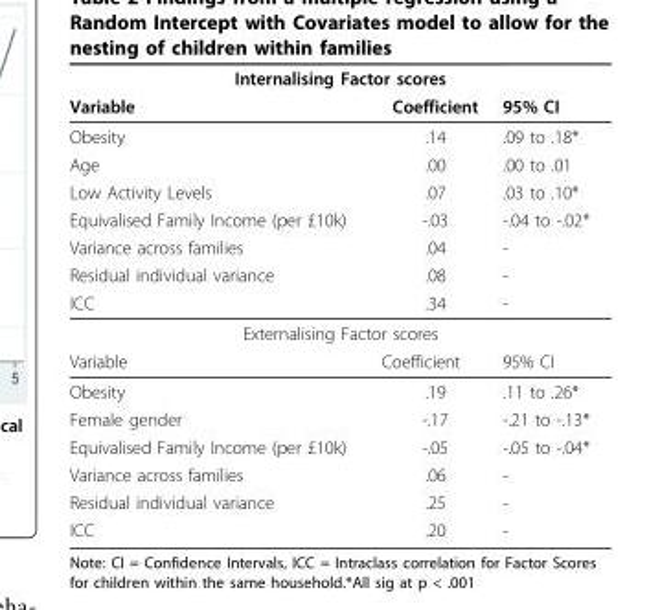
<table><thead><tr><td colspan="3">Internalising Factor scores</td></tr><tr><td>Variable</td><td>Coefficient</td><td>95% CI</td></tr></thead><tbody><tr><td>Obesity</td><td>.14</td><td>.09 to .18*</td></tr><tr><td>Age</td><td>.00</td><td>.00 to .01</td></tr><tr><td>Low Activity Levels</td><td>.07</td><td>.03 to .10*</td></tr><tr><td>Equivalised Family Income (per £10k)</td><td>-.03</td><td>-.04 to -.02*</td></tr><tr><td>Variance across families</td><td>.04</td><td>-</td></tr><tr><td>Residual individual variance</td><td>.08</td><td>-</td></tr><tr><td>ICC</td><td>.34</td><td>-</td></tr><tr><td colspan="3">Externalising Factor scores</td></tr><tr><td>Variable</td><td>Coefficient</td><td>95% CI</td></tr><tr><td>Obesity</td><td>.19</td><td>.11 to .26*</td></tr><tr><td>Female gender</td><td>-.17</td><td>-.21 to -.13*</td></tr><tr><td>Equivalised Family Income (per £10k)</td><td>-.05</td><td>-.05 to -.04*</td></tr><tr><td>Variance across families</td><td>.06</td><td>-</td></tr><tr><td>Residual individual variance</td><td>.25</td><td>-</td></tr><tr><td>ICC</td><td>.20</td><td>-</td></tr></tbody></table>